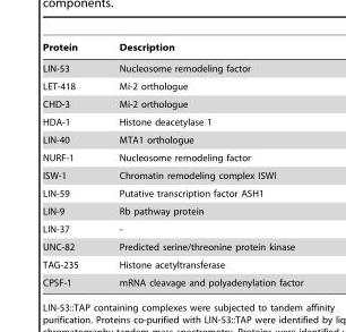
<table><thead><tr><td>Protein</td><td>Description</td></tr></thead><tbody><tr><td>LIN-53</td><td>Nucleosome remodeling factor</td></tr><tr><td>LET-418</td><td>Mi-2 orthologue</td></tr><tr><td>CHD-3</td><td>Mi-2 orthologue</td></tr><tr><td>HDA-1</td><td>Histone deacetylase 1</td></tr><tr><td>LIN-40</td><td>MTA1 orthologue</td></tr><tr><td>NURF-1</td><td>Nucleosome remodeling factor</td></tr><tr><td>ISW-1</td><td>Chromatin remodeling complex ISWI</td></tr><tr><td>LIN-59</td><td>Putative transcription factor ASH1</td></tr><tr><td>LIN-9</td><td>Rb pathway protein</td></tr><tr><td>LIN-37</td><td>-</td></tr><tr><td>UNC-82</td><td>Predicted serine/threonine protein kinase</td></tr><tr><td>TAG-235</td><td>Histone acetyltransferase</td></tr><tr><td>CPSF-1</td><td>mRNA cleavage and polyadenylation factor</td></tr></tbody></table>